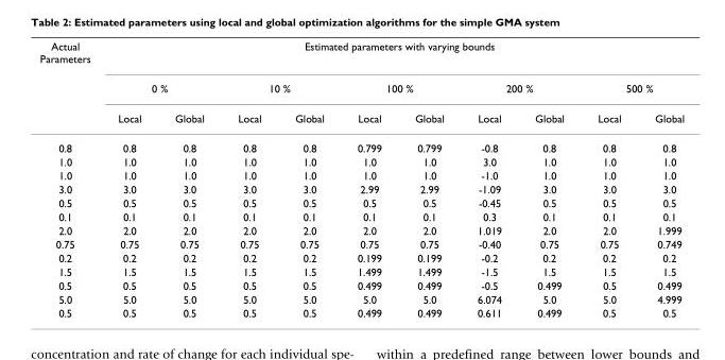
<table><thead><tr><td rowspan="3">Actual Parameters</td><td colspan="10">Estimated parameters with varying bounds</td></tr><tr><td colspan="2">0 %</td><td colspan="2">10 %</td><td colspan="2">100 %</td><td colspan="2">200 %</td><td colspan="2">500 %</td></tr><tr><td>Local</td><td>Global</td><td>Local</td><td>Global</td><td>Local</td><td>Global</td><td>Local</td><td>Global</td><td>Local</td><td>Global</td></tr></thead><tbody><tr><td>0.8</td><td>0.8</td><td>0.8</td><td>0.8</td><td>0.8</td><td>0.799</td><td>0.799</td><td>-0.8</td><td>0.8</td><td>0.8</td><td>0.8</td></tr><tr><td>1.0</td><td>1.0</td><td>1.0</td><td>1.0</td><td>1.0</td><td>1.0</td><td>1.0</td><td>3.0</td><td>1.0</td><td>1.0</td><td>1.0</td></tr><tr><td>1.0</td><td>1.0</td><td>1.0</td><td>1.0</td><td>1.0</td><td>1.0</td><td>1.0</td><td>-1.0</td><td>1.0</td><td>1.0</td><td>1.0</td></tr><tr><td>3.0</td><td>3.0</td><td>3.0</td><td>3.0</td><td>3.0</td><td>2.99</td><td>2.99</td><td>-1.09</td><td>3.0</td><td>3.0</td><td>3.0</td></tr><tr><td>0.5</td><td>0.5</td><td>0.5</td><td>0.5</td><td>0.5</td><td>0.5</td><td>0.5</td><td>-0.45</td><td>0.5</td><td>0.5</td><td>0.5</td></tr><tr><td>0.1</td><td>0.1</td><td>0.1</td><td>0.1</td><td>0.1</td><td>0.1</td><td>0.1</td><td>0.3</td><td>0.1</td><td>0.1</td><td>0.1</td></tr><tr><td>2.0</td><td>2.0</td><td>2.0</td><td>2.0</td><td>2.0</td><td>2.0</td><td>2.0</td><td>1.019</td><td>2.0</td><td>2.0</td><td>1.999</td></tr><tr><td>0.75</td><td>0.75</td><td>0.75</td><td>0.75</td><td>0.75</td><td>0.75</td><td>0.75</td><td>-0.40</td><td>0.75</td><td>0.75</td><td>0.749</td></tr><tr><td>0.2</td><td>0.2</td><td>0.2</td><td>0.2</td><td>0.2</td><td>0.199</td><td>0.199</td><td>-0.2</td><td>0.2</td><td>0.2</td><td>0.2</td></tr><tr><td>1.5</td><td>1.5</td><td>1.5</td><td>1.5</td><td>1.5</td><td>1.499</td><td>1.499</td><td>-1.5</td><td>1.5</td><td>1.5</td><td>1.5</td></tr><tr><td>0.5</td><td>0.5</td><td>0.5</td><td>0.5</td><td>0.5</td><td>0.499</td><td>0.499</td><td>-0.5</td><td>0.499</td><td>0.5</td><td>0.499</td></tr><tr><td>5.0</td><td>5.0</td><td>5.0</td><td>5.0</td><td>5.0</td><td>5.0</td><td>5.0</td><td>6.074</td><td>5.0</td><td>5.0</td><td>4.999</td></tr><tr><td>0.5</td><td>0.5</td><td>0.5</td><td>0.5</td><td>0.5</td><td>0.499</td><td>0.499</td><td>0.611</td><td>0.499</td><td>0.5</td><td>0.5</td></tr></tbody></table>